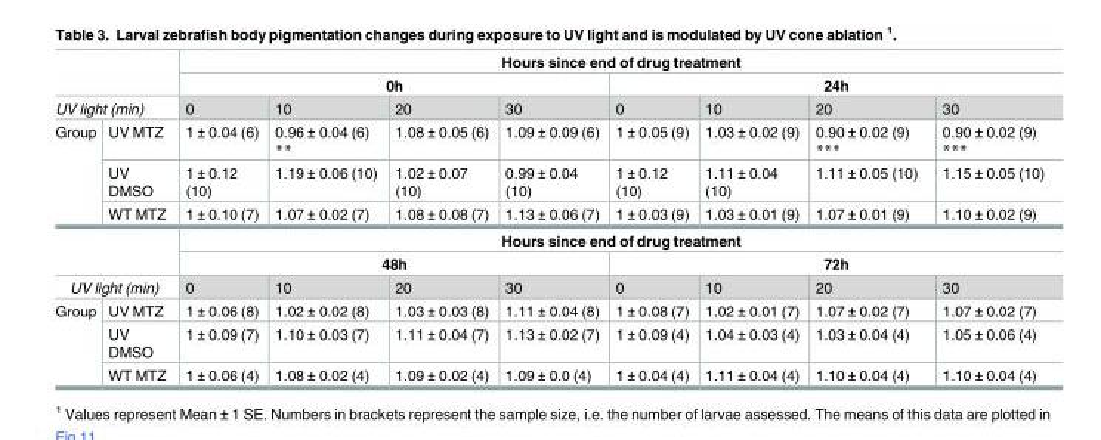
<table><thead><tr><td rowspan="2"></td><td rowspan="2"></td><td colspan="8">Hours since end of drug treatment</td></tr><tr><td colspan="4">0h</td><td colspan="4">24h</td></tr><tr><td colspan="2">UV light (min)</td><td>0</td><td>10</td><td>20</td><td>30</td><td>0</td><td>10</td><td>20</td><td>30</td></tr></thead><tbody><tr><td rowspan="3">Group</td><td>UV MTZ</td><td>1 ± 0.04 (6)</td><td>0.96 ± 0.04 (6) **</td><td>1.08 ± 0.05 (6)</td><td>1.09 ± 0.09 (6)</td><td>1 ± 0.05 (9)</td><td>1.03 ± 0.02 (9)</td><td>0.90 ± 0.02 (9) ***</td><td>0.90 ± 0.02 (9) ***</td></tr><tr><td>UV DMSO</td><td>1 ± 0.12 (10)</td><td>1.19 ± 0.06 (10)</td><td>1.02 ± 0.07 (10)</td><td>0.99 ± 0.04 (10)</td><td>1 ± 0.12 (10)</td><td>1.11 ± 0.04 (10)</td><td>1.11 ± 0.05 (10)</td><td>1.15 ± 0.05 (10)</td></tr><tr><td>WT MTZ</td><td>1 ± 0.10 (7)</td><td>1.07 ± 0.02 (7)</td><td>1.08 ± 0.08 (7)</td><td>1.13 ± 0.06 (7)</td><td>1 ± 0.03 (9)</td><td>1.03 ± 0.01 (9)</td><td>1.07 ± 0.01 (9)</td><td>1.10 ± 0.02 (9)</td></tr><tr><td rowspan="2" colspan="2"></td><td colspan="8">Hours since end of drug treatment</td></tr><tr><td colspan="4">48h</td><td colspan="4">72h</td></tr><tr><td colspan="2">UV light (min)</td><td>0</td><td>10</td><td>20</td><td>30</td><td>0</td><td>10</td><td>20</td><td>30</td></tr><tr><td rowspan="3">Group</td><td>UV MTZ</td><td>1 ± 0.06 (8)</td><td>1.02 ± 0.02 (8)</td><td>1.03 ± 0.03 (8)</td><td>1.11 ± 0.04 (8)</td><td>1 ± 0.08 (7)</td><td>1.02 ± 0.01 (7)</td><td>1.07 ± 0.02 (7)</td><td>1.07 ± 0.02 (7)</td></tr><tr><td>UV DMSO</td><td>1 ± 0.09 (7)</td><td>1.10 ± 0.03 (7)</td><td>1.11 ± 0.04 (7)</td><td>1.13 ± 0.02 (7)</td><td>1 ± 0.09 (4)</td><td>1.04 ± 0.03 (4)</td><td>1.03 ± 0.04 (4)</td><td>1.05 ± 0.06 (4)</td></tr><tr><td>WT MTZ</td><td>1 ± 0.06 (4)</td><td>1.08 ± 0.02 (4)</td><td>1.09 ± 0.02 (4)</td><td>1.09 ± 0.0 (4)</td><td>1 ± 0.04 (4)</td><td>1.11 ± 0.04 (4)</td><td>1.10 ± 0.04 (4)</td><td>1.10 ± 0.04 (4)</td></tr></tbody></table>